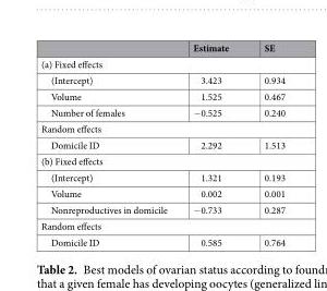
<table><thead><tr><td></td><td>Estimate</td><td>SE</td></tr></thead><tbody><tr><td colspan="3">(a) Fixed effects</td></tr><tr><td>(Intercept)</td><td>3.423</td><td>0.934</td></tr><tr><td>Volume</td><td>1.525</td><td>0.467</td></tr><tr><td>Number of females</td><td>−0.525</td><td>0.240</td></tr><tr><td colspan="3">Random effects</td></tr><tr><td>Domicile ID</td><td>2.292</td><td>1.513</td></tr><tr><td colspan="3">(b) Fixed effects</td></tr><tr><td>(Intercept)</td><td>1.321</td><td>0.193</td></tr><tr><td>Volume</td><td>0.002</td><td>0.001</td></tr><tr><td>Nonreproductives in domicile</td><td>−0.733</td><td>0.287</td></tr><tr><td colspan="3">Random effects</td></tr><tr><td>Domicile ID</td><td>0.585</td><td>0.764</td></tr></tbody></table>